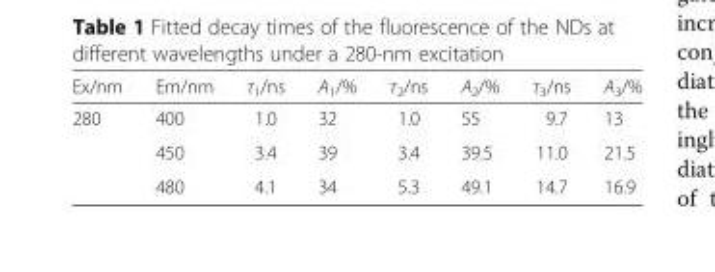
<table><thead><tr><td>Ex/nm</td><td>Em/nm</td><td>τ<sub>1</sub>/ns</td><td>A<sub>1</sub>/%</td><td>τ<sub>2</sub>/ns</td><td>A<sub>2</sub>/%</td><td>τ<sub>3</sub>/ns</td><td>A<sub>3</sub>/%</td></tr></thead><tbody><tr><td rowspan="3">280</td><td>400</td><td>1.0</td><td>32</td><td>1.0</td><td>55</td><td>9.7</td><td>13</td></tr><tr><td>450</td><td>3.4</td><td>39</td><td>3.4</td><td>39.5</td><td>11.0</td><td>21.5</td></tr><tr><td>480</td><td>4.1</td><td>34</td><td>5.3</td><td>49.1</td><td>14.7</td><td>16.9</td></tr></tbody></table>